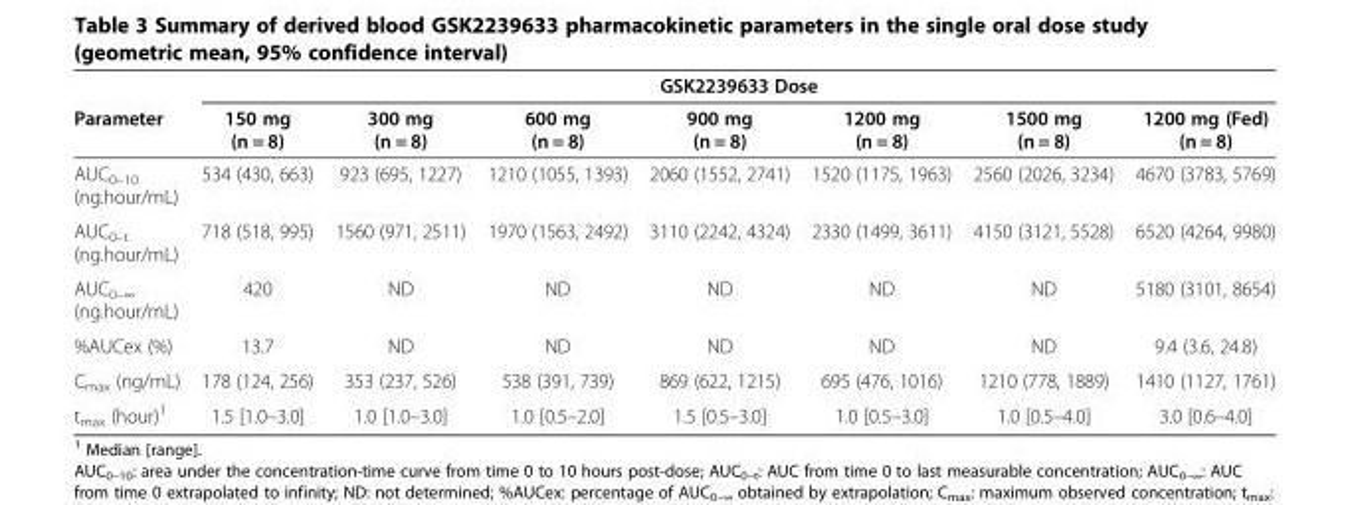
<table><thead><tr><td rowspan="2">Parameter</td><td colspan="7">GSK2239633 Dose</td></tr><tr><td>150 mg (n = 8)</td><td>300 mg (n = 8)</td><td>600 mg (n = 8)</td><td>900 mg (n = 8)</td><td>1200 mg (n = 8)</td><td>1500 mg (n = 8)</td><td>1200 mg (Fed) (n = 8)</td></tr></thead><tbody><tr><td>AUC<sub>0–10</sub> (ng.hour/mL)</td><td>534 (430, 663)</td><td>923 (695, 1227)</td><td>1210 (1055, 1393)</td><td>2060 (1552, 2741)</td><td>1520 (1175, 1963)</td><td>2560 (2026, 3234)</td><td>4670 (3783, 5769)</td></tr><tr><td>AUC<sub>0–t</sub> (ng.hour/mL)</td><td>718 (518, 995)</td><td>1560 (971, 2511)</td><td>1970 (1563, 2492)</td><td>3110 (2242, 4324)</td><td>2330 (1499, 3611)</td><td>4150 (3121, 5528)</td><td>6520 (4264, 9980)</td></tr><tr><td>AUC<sub>0–∞</sub> (ng.hour/mL)</td><td>420</td><td>ND</td><td>ND</td><td>ND</td><td>ND</td><td>ND</td><td>5180 (3101, 8654)</td></tr><tr><td>%AUCex (%)</td><td>13.7</td><td>ND</td><td>ND</td><td>ND</td><td>ND</td><td>ND</td><td>9.4 (3.6, 24.8)</td></tr><tr><td>C<sub>max</sub> (ng/mL)</td><td>178 (124, 256)</td><td>353 (237, 526)</td><td>538 (391, 739)</td><td>869 (622, 1215)</td><td>695 (476, 1016)</td><td>1210 (778, 1889)</td><td>1410 (1127, 1761)</td></tr><tr><td>t<sub>max</sub> (hour)<sup>1</sup></td><td>1.5 [1.0–3.0]</td><td>1.0 [1.0–3.0]</td><td>1.0 [0.5–2.0]</td><td>1.5 [0.5–3.0]</td><td>1.0 [0.5–3.0]</td><td>1.0 [0.5–4.0]</td><td>3.0 [0.6–4.0]</td></tr></tbody></table>